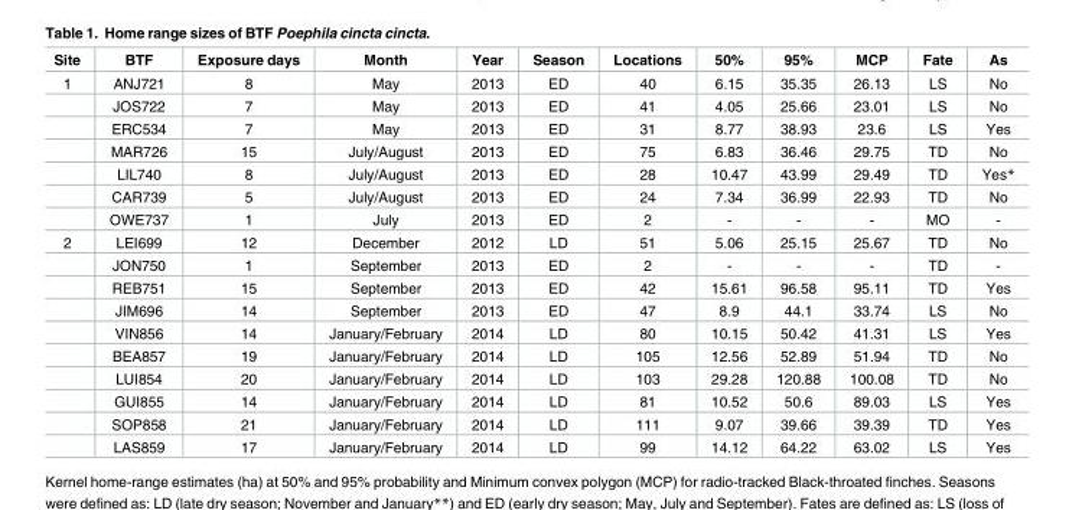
<table><thead><tr><td>Site</td><td>BTF</td><td>Exposure days</td><td>Month</td><td>Year</td><td>Season</td><td>Locations</td><td>50%</td><td>95%</td><td>MCP</td><td>Fate</td><td>As</td></tr></thead><tbody><tr><td rowspan="7">1</td><td>ANJ721</td><td>8</td><td>May</td><td>2013</td><td>ED</td><td>40</td><td>6.15</td><td>35.35</td><td>26.13</td><td>LS</td><td>No</td></tr><tr><td>JOS722</td><td>7</td><td>May</td><td>2013</td><td>ED</td><td>41</td><td>4.05</td><td>25.66</td><td>23.01</td><td>LS</td><td>No</td></tr><tr><td>ERC534</td><td>7</td><td>May</td><td>2013</td><td>ED</td><td>31</td><td>8.77</td><td>38.93</td><td>23.6</td><td>LS</td><td>Yes</td></tr><tr><td>MAR726</td><td>15</td><td>July/August</td><td>2013</td><td>ED</td><td>75</td><td>6.83</td><td>36.46</td><td>29.75</td><td>TD</td><td>No</td></tr><tr><td>LIL740</td><td>8</td><td>July/August</td><td>2013</td><td>ED</td><td>28</td><td>10.47</td><td>43.99</td><td>29.49</td><td>TD</td><td>Yes*</td></tr><tr><td>CAR739</td><td>5</td><td>July/August</td><td>2013</td><td>ED</td><td>24</td><td>7.34</td><td>36.99</td><td>22.93</td><td>TD</td><td>No</td></tr><tr><td>OWE737</td><td>1</td><td>July</td><td>2013</td><td>ED</td><td>2</td><td>-</td><td>-</td><td>-</td><td>MO</td><td>-</td></tr><tr><td rowspan="10">2</td><td>LEI699</td><td>12</td><td>December</td><td>2012</td><td>LD</td><td>51</td><td>5.06</td><td>25.15</td><td>25.67</td><td>TD</td><td>No</td></tr><tr><td>JON750</td><td>1</td><td>September</td><td>2013</td><td>ED</td><td>2</td><td>-</td><td>-</td><td>-</td><td>TD</td><td>-</td></tr><tr><td>REB751</td><td>15</td><td>September</td><td>2013</td><td>ED</td><td>42</td><td>15.61</td><td>96.58</td><td>95.11</td><td>TD</td><td>Yes</td></tr><tr><td>JIM696</td><td>14</td><td>September</td><td>2013</td><td>ED</td><td>47</td><td>8.9</td><td>44.1</td><td>33.74</td><td>LS</td><td>No</td></tr><tr><td>VIN856</td><td>14</td><td>January/February</td><td>2014</td><td>LD</td><td>80</td><td>10.15</td><td>50.42</td><td>41.31</td><td>LS</td><td>Yes</td></tr><tr><td>BEA857</td><td>19</td><td>January/February</td><td>2014</td><td>LD</td><td>105</td><td>12.56</td><td>52.89</td><td>51.94</td><td>TD</td><td>No</td></tr><tr><td>LUI854</td><td>20</td><td>January/February</td><td>2014</td><td>LD</td><td>103</td><td>29.28</td><td>120.88</td><td>100.08</td><td>TD</td><td>No</td></tr><tr><td>GUI855</td><td>14</td><td>January/February</td><td>2014</td><td>LD</td><td>81</td><td>10.52</td><td>50.6</td><td>89.03</td><td>LS</td><td>Yes</td></tr><tr><td>SOP858</td><td>21</td><td>January/February</td><td>2014</td><td>LD</td><td>111</td><td>9.07</td><td>39.66</td><td>39.39</td><td>TD</td><td>Yes</td></tr><tr><td>LAS859</td><td>17</td><td>January/February</td><td>2014</td><td>LD</td><td>99</td><td>14.12</td><td>64.22</td><td>63.02</td><td>LS</td><td>Yes</td></tr></tbody></table>